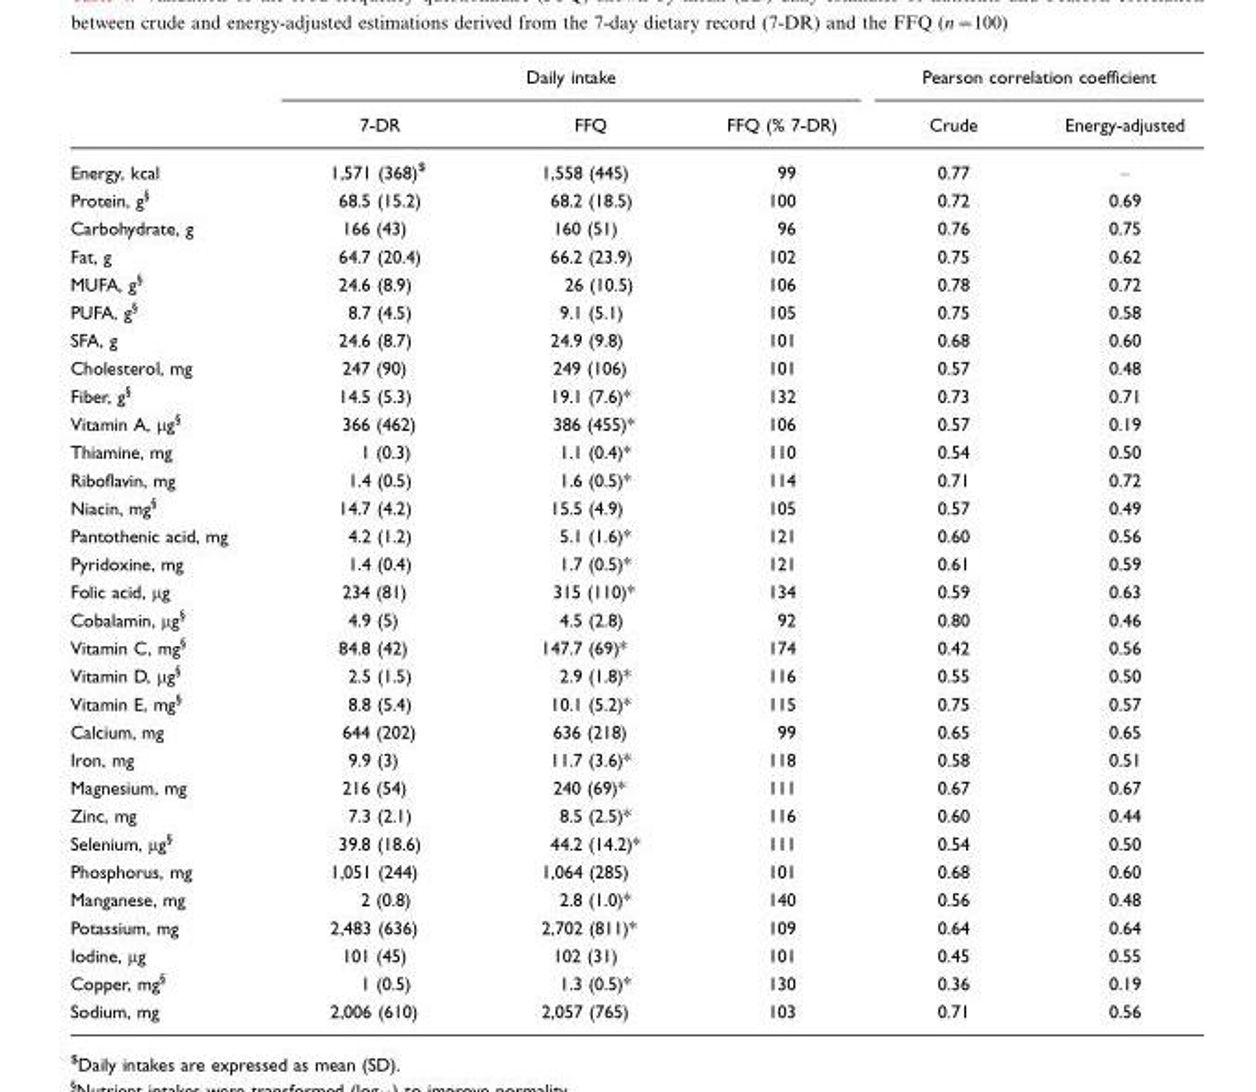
<table><thead><tr><td rowspan="2"></td><td colspan="3">Daily intake</td><td colspan="2">Pearson correlation coefficient</td></tr><tr><td>7-DR</td><td>FFQ</td><td>FFQ (% 7-DR)</td><td>Crude</td><td>Energy-adjusted</td></tr></thead><tbody><tr><td>Energy, kcal</td><td>1,571 (368)$</td><td>1,558 (445)</td><td>99</td><td>0.77</td><td>–</td></tr><tr><td>Protein, g§</td><td>68.5 (15.2)</td><td>68.2 (18.5)</td><td>100</td><td>0.72</td><td>0.69</td></tr><tr><td>Carbohydrate, g</td><td>166 (43)</td><td>160 (51)</td><td>96</td><td>0.76</td><td>0.75</td></tr><tr><td>Fat, g</td><td>64.7 (20.4)</td><td>66.2 (23.9)</td><td>102</td><td>0.75</td><td>0.62</td></tr><tr><td>MUFA, g§</td><td>24.6 (8.9)</td><td>26 (10.5)</td><td>106</td><td>0.78</td><td>0.72</td></tr><tr><td>PUFA, g§</td><td>8.7 (4.5)</td><td>9.1 (5.1)</td><td>105</td><td>0.75</td><td>0.58</td></tr><tr><td>SFA, g</td><td>24.6 (8.7)</td><td>24.9 (9.8)</td><td>101</td><td>0.68</td><td>0.60</td></tr><tr><td>Cholesterol, mg</td><td>247 (90)</td><td>249 (106)</td><td>101</td><td>0.57</td><td>0.48</td></tr><tr><td>Fiber, g§</td><td>14.5 (5.3)</td><td>19.1 (7.6)*</td><td>132</td><td>0.73</td><td>0.71</td></tr><tr><td>Vitamin A, µg§</td><td>366 (462)</td><td>386 (455)*</td><td>106</td><td>0.57</td><td>0.19</td></tr><tr><td>Thiamine, mg</td><td>1 (0.3)</td><td>1.1 (0.4)*</td><td>110</td><td>0.54</td><td>0.50</td></tr><tr><td>Riboflavin, mg</td><td>1.4 (0.5)</td><td>1.6 (0.5)*</td><td>114</td><td>0.71</td><td>0.72</td></tr><tr><td>Niacin, mg§</td><td>14.7 (4.2)</td><td>15.5 (4.9)</td><td>105</td><td>0.57</td><td>0.49</td></tr><tr><td>Pantothenic acid, mg</td><td>4.2 (1.2)</td><td>5.1 (1.6)*</td><td>121</td><td>0.60</td><td>0.56</td></tr><tr><td>Pyridoxine, mg</td><td>1.4 (0.4)</td><td>1.7 (0.5)*</td><td>121</td><td>0.61</td><td>0.59</td></tr><tr><td>Folic acid, µg</td><td>234 (81)</td><td>315 (110)*</td><td>134</td><td>0.59</td><td>0.63</td></tr><tr><td>Cobalamin, µg§</td><td>4.9 (5)</td><td>4.5 (2.8)</td><td>92</td><td>0.80</td><td>0.46</td></tr><tr><td>Vitamin C, mg§</td><td>84.8 (42)</td><td>147.7 (69)*</td><td>174</td><td>0.42</td><td>0.56</td></tr><tr><td>Vitamin D, µg§</td><td>2.5 (1.5)</td><td>2.9 (1.8)*</td><td>116</td><td>0.55</td><td>0.50</td></tr><tr><td>Vitamin E, mg§</td><td>8.8 (5.4)</td><td>10.1 (5.2)*</td><td>115</td><td>0.75</td><td>0.57</td></tr><tr><td>Calcium, mg</td><td>644 (202)</td><td>636 (218)</td><td>99</td><td>0.65</td><td>0.65</td></tr><tr><td>Iron, mg</td><td>9.9 (3)</td><td>11.7 (3.6)*</td><td>118</td><td>0.58</td><td>0.51</td></tr><tr><td>Magnesium, mg</td><td>216 (54)</td><td>240 (69)*</td><td>111</td><td>0.67</td><td>0.67</td></tr><tr><td>Zinc, mg</td><td>7.3 (2.1)</td><td>8.5 (2.5)*</td><td>116</td><td>0.60</td><td>0.44</td></tr><tr><td>Selenium, µg§</td><td>39.8 (18.6)</td><td>44.2 (14.2)*</td><td>111</td><td>0.54</td><td>0.50</td></tr><tr><td>Phosphorus, mg</td><td>1,051 (244)</td><td>1,064 (285)</td><td>101</td><td>0.68</td><td>0.60</td></tr><tr><td>Manganese, mg</td><td>2 (0.8)</td><td>2.8 (1.0)*</td><td>140</td><td>0.56</td><td>0.48</td></tr><tr><td>Potassium, mg</td><td>2,483 (636)</td><td>2,702 (811)*</td><td>109</td><td>0.64</td><td>0.64</td></tr><tr><td>Iodine, µg</td><td>101 (45)</td><td>102 (31)</td><td>101</td><td>0.45</td><td>0.55</td></tr><tr><td>Copper, mg§</td><td>1 (0.5)</td><td>1.3 (0.5)*</td><td>130</td><td>0.36</td><td>0.19</td></tr><tr><td>Sodium, mg</td><td>2,006 (610)</td><td>2,057 (765)</td><td>103</td><td>0.71</td><td>0.56</td></tr></tbody></table>